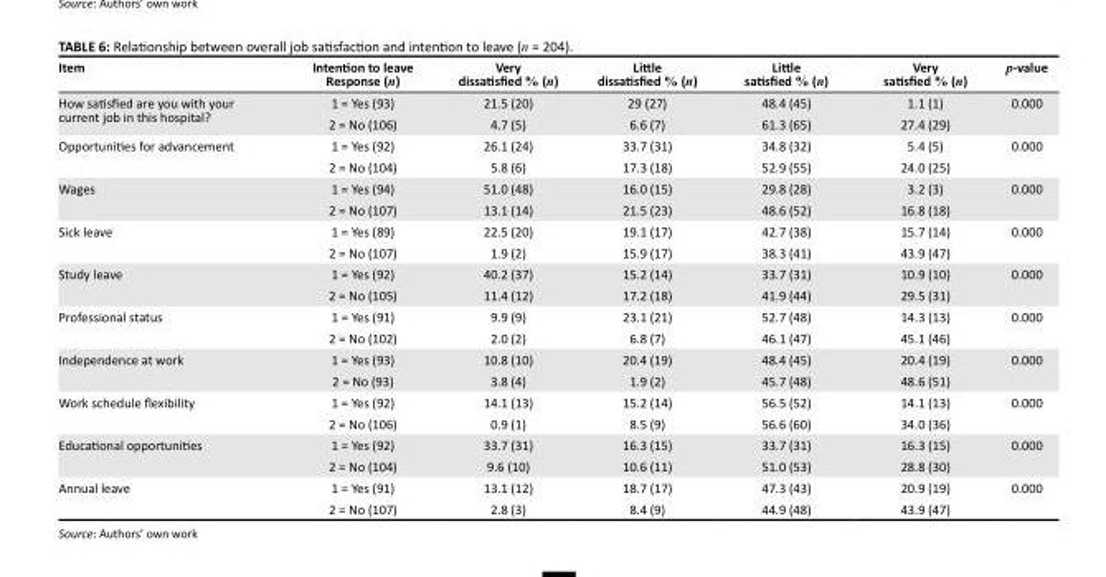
<table><thead><tr><td>Item</td><td>Intention to leave Response (n)</td><td>Very dissatisfied % (n)</td><td>Little dissatisfied % (n)</td><td>Little satisfied % (n)</td><td>Very satisfied % (n)</td><td>p-value</td></tr></thead><tbody><tr><td rowspan="2">How satisfied are you with your current job in this hospital?</td><td>1 = Yes (93)</td><td>21.5 (20)</td><td>29 (27)</td><td>48.4 (45)</td><td>1.1 (1)</td><td>0.000</td></tr><tr><td>2 = No (106)</td><td>4.7 (5)</td><td>6.6 (7)</td><td>61.3 (65)</td><td>27.4 (29)</td><td></td></tr><tr><td rowspan="2">Opportunities for advancement</td><td>1 = Yes (92)</td><td>26.1 (24)</td><td>33.7 (31)</td><td>34.8 (32)</td><td>5.4 (5)</td><td>0.000</td></tr><tr><td>2 = No (104)</td><td>5.8 (6)</td><td>17.3 (18)</td><td>52.9 (55)</td><td>24.0 (25)</td><td></td></tr><tr><td rowspan="2">Wages</td><td>1 = Yes (94)</td><td>51.0 (48)</td><td>16.0 (15)</td><td>29.8 (28)</td><td>3.2 (3)</td><td>0.000</td></tr><tr><td>2 = No (107)</td><td>13.1 (14)</td><td>21.5 (23)</td><td>48.6 (52)</td><td>16.8 (18)</td><td></td></tr><tr><td rowspan="2">Sick leave</td><td>1 = Yes (89)</td><td>22.5 (20)</td><td>19.1 (17)</td><td>42.7 (38)</td><td>15.7 (14)</td><td>0.000</td></tr><tr><td>2 = No (107)</td><td>1.9 (2)</td><td>15.9 (17)</td><td>38.3 (41)</td><td>43.9 (47)</td><td></td></tr><tr><td rowspan="2">Study leave</td><td>1 = Yes (92)</td><td>40.2 (37)</td><td>15.2 (14)</td><td>33.7 (31)</td><td>10.9 (10)</td><td>0.000</td></tr><tr><td>2 = No (105)</td><td>11.4 (12)</td><td>17.2 (18)</td><td>41.9 (44)</td><td>29.5 (31)</td><td></td></tr><tr><td rowspan="2">Professional status</td><td>1 = Yes (91)</td><td>9.9 (9)</td><td>23.1 (21)</td><td>52.7 (48)</td><td>14.3 (13)</td><td>0.000</td></tr><tr><td>2 = No (102)</td><td>2.0 (2)</td><td>6.8 (7)</td><td>46.1 (47)</td><td>45.1 (46)</td><td></td></tr><tr><td rowspan="2">Independence at work</td><td>1 = Yes (93)</td><td>10.8 (10)</td><td>20.4 (19)</td><td>48.4 (45)</td><td>20.4 (19)</td><td>0.000</td></tr><tr><td>2 = No (93)</td><td>3.8 (4)</td><td>1.9 (2)</td><td>45.7 (48)</td><td>48.6 (51)</td><td></td></tr><tr><td rowspan="2">Work schedule flexibility</td><td>1 = Yes (92)</td><td>14.1 (13)</td><td>15.2 (14)</td><td>56.5 (52)</td><td>14.1 (13)</td><td>0.000</td></tr><tr><td>2 = No (106)</td><td>0.9 (1)</td><td>8.5 (9)</td><td>56.6 (60)</td><td>34.0 (36)</td><td></td></tr><tr><td rowspan="2">Educational opportunities</td><td>1 = Yes (92)</td><td>33.7 (31)</td><td>16.3 (15)</td><td>33.7 (31)</td><td>16.3 (15)</td><td>0.000</td></tr><tr><td>2 = No (104)</td><td>9.6 (10)</td><td>10.6 (11)</td><td>51.0 (53)</td><td>28.8 (30)</td><td></td></tr><tr><td rowspan="2">Annual leave</td><td>1 = Yes (91)</td><td>13.1 (12)</td><td>18.7 (17)</td><td>47.3 (43)</td><td>20.9 (19)</td><td>0.000</td></tr><tr><td>2 = No (107)</td><td>2.8 (3)</td><td>8.4 (9)</td><td>44.9 (48)</td><td>43.9 (47)</td><td></td></tr></tbody></table>